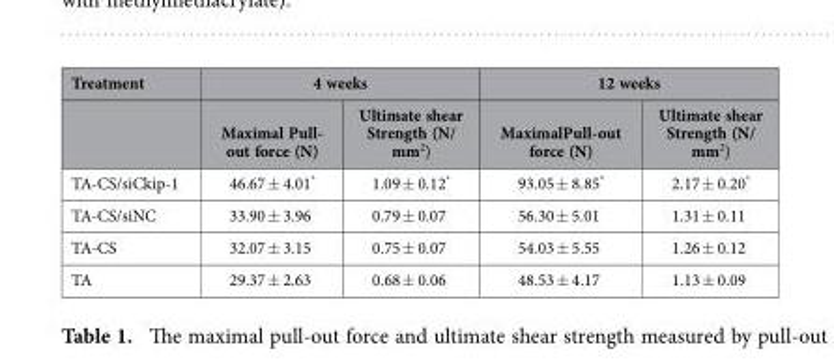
<table><thead><tr><td rowspan="2">Treatment</td><td colspan="2">4 weeks</td><td colspan="2">12 weeks</td></tr><tr><td>Maximal Pull- out force (N)</td><td>Ultimate shear Strength (N/ mm<sup>2</sup>)</td><td>MaximalPull-out force (N)</td><td>Ultimate shear Strength (N/ mm<sup>2</sup>)</td></tr></thead><tbody><tr><td>TA-CS/siCkip-1</td><td>46.67 ± 4.01*</td><td>1.09 ± 0.12*</td><td>93.05 ± 8.85*</td><td>2.17 ± 0.20*</td></tr><tr><td>TA-CS/siNC</td><td>33.90 ± 3.96</td><td>0.79 ± 0.07</td><td>56.30 ± 5.01</td><td>1.31 ± 0.11</td></tr><tr><td>TA-CS</td><td>32.07 ± 3.15</td><td>0.75 ± 0.07</td><td>54.03 ± 5.55</td><td>1.26 ± 0.12</td></tr><tr><td>TA</td><td>29.37 ± 2.63</td><td>0.68 ± 0.06</td><td>48.53 ± 4.17</td><td>1.13 ± 0.09</td></tr></tbody></table>